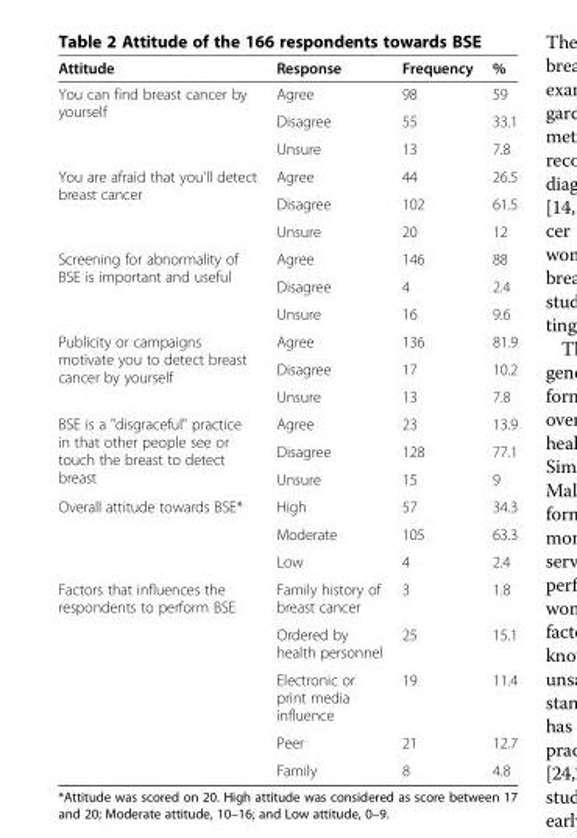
<table><thead><tr><td>Attitude</td><td>Response</td><td>Frequency</td><td>%</td></tr></thead><tbody><tr><td rowspan="3">You can find breast cancer by yourself</td><td>Agree</td><td>98</td><td>59</td></tr><tr><td>Disagree</td><td>55</td><td>33.1</td></tr><tr><td>Unsure</td><td>13</td><td>7.8</td></tr><tr><td rowspan="3">You are afraid that you&#x27;ll detect breast cancer</td><td>Agree</td><td>44</td><td>26.5</td></tr><tr><td>Disagree</td><td>102</td><td>61.5</td></tr><tr><td>Unsure</td><td>20</td><td>12</td></tr><tr><td rowspan="3">Screening for abnormality of BSE is important and useful</td><td>Agree</td><td>146</td><td>88</td></tr><tr><td>Disagree</td><td>4</td><td>2.4</td></tr><tr><td>Unsure</td><td>16</td><td>9.6</td></tr><tr><td rowspan="3">Publicity or campaigns motivate you to detect breast cancer by yourself</td><td>Agree</td><td>136</td><td>81.9</td></tr><tr><td>Disagree</td><td>17</td><td>10.2</td></tr><tr><td>Unsure</td><td>13</td><td>7.8</td></tr><tr><td rowspan="3">BSE is a &quot;disgraceful&quot; practice in that other people see or touch the breast to detect breast</td><td>Agree</td><td>23</td><td>13.9</td></tr><tr><td>Disagree</td><td>128</td><td>77.1</td></tr><tr><td>Unsure</td><td>15</td><td>9</td></tr><tr><td rowspan="3">Overall attitude towards BSE*</td><td>High</td><td>57</td><td>34.3</td></tr><tr><td>Moderate</td><td>105</td><td>63.3</td></tr><tr><td>Low</td><td>4</td><td>2.4</td></tr><tr><td rowspan="5">Factors that influences the respondents to perform BSE</td><td>Family history of breast cancer</td><td>3</td><td>1.8</td></tr><tr><td>Ordered by health personnel</td><td>25</td><td>15.1</td></tr><tr><td>Electronic or print media influence</td><td>19</td><td>11.4</td></tr><tr><td>Peer</td><td>21</td><td>12.7</td></tr><tr><td>Family</td><td>8</td><td>4.8</td></tr></tbody></table>